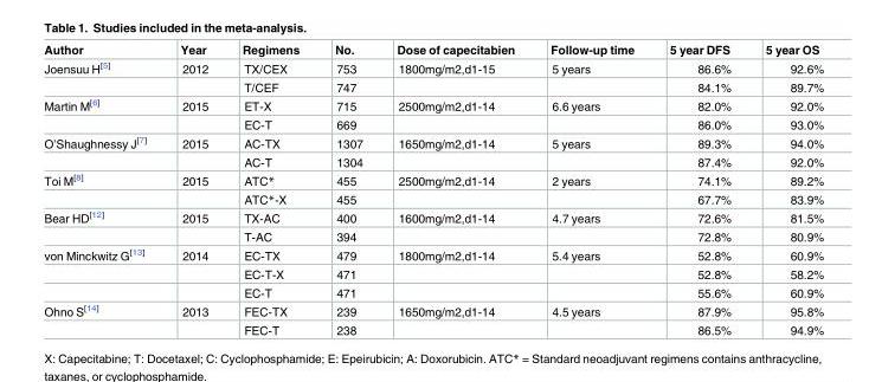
<table><thead><tr><td>Author</td><td>Year</td><td>Regimens</td><td>No.</td><td>Dose of capecitabien</td><td>Follow-up time</td><td>5 year DFS</td><td>5 year OS</td></tr></thead><tbody><tr><td rowspan="2">Joensuu H<sup>[5]</sup></td><td>2012</td><td>TX/CEX</td><td>753</td><td>1800mg/m2,d1-15</td><td>5 years</td><td>86.6%</td><td>92.6%</td></tr><tr><td></td><td>T/CEF</td><td>747</td><td></td><td></td><td>84.1%</td><td>89.7%</td></tr><tr><td rowspan="2">Martin M<sup>[6]</sup></td><td>2015</td><td>ET-X</td><td>715</td><td>2500mg/m2,d1-14</td><td>6.6 years</td><td>82.0%</td><td>92.0%</td></tr><tr><td></td><td>EC-T</td><td>669</td><td></td><td></td><td>86.0%</td><td>93.0%</td></tr><tr><td rowspan="2">O’Shaughnessy J<sup>[7]</sup></td><td>2015</td><td>AC-TX</td><td>1307</td><td>1650mg/m2,d1-14</td><td>5 years</td><td>89.3%</td><td>94.0%</td></tr><tr><td></td><td>AC-T</td><td>1304</td><td></td><td></td><td>87.4%</td><td>92.0%</td></tr><tr><td rowspan="2">Toi M<sup>[8]</sup></td><td>2015</td><td>ATC*</td><td>455</td><td>2500mg/m2,d1-14</td><td>2 years</td><td>74.1%</td><td>89.2%</td></tr><tr><td></td><td>ATC*-X</td><td>455</td><td></td><td></td><td>67.7%</td><td>83.9%</td></tr><tr><td rowspan="2">Bear HD<sup>[12]</sup></td><td>2015</td><td>TX-AC</td><td>400</td><td>1600mg/m2,d1-14</td><td>4.7 years</td><td>72.6%</td><td>81.5%</td></tr><tr><td></td><td>T-AC</td><td>394</td><td></td><td></td><td>72.8%</td><td>80.9%</td></tr><tr><td rowspan="3">von Minckwitz G<sup>[13]</sup></td><td>2014</td><td>EC-TX</td><td>479</td><td>1800mg/m2,d1-14</td><td>5.4 years</td><td>52.8%</td><td>60.9%</td></tr><tr><td></td><td>EC-T-X</td><td>471</td><td></td><td></td><td>52.8%</td><td>58.2%</td></tr><tr><td></td><td>EC-T</td><td>471</td><td></td><td></td><td>55.6%</td><td>60.9%</td></tr><tr><td rowspan="2">Ohno S<sup>[14]</sup></td><td>2013</td><td>FEC-TX</td><td>239</td><td>1650mg/m2,d1-14</td><td>4.5 years</td><td>87.9%</td><td>95.8%</td></tr><tr><td></td><td>FEC-T</td><td>238</td><td></td><td></td><td>86.5%</td><td>94.9%</td></tr></tbody></table>